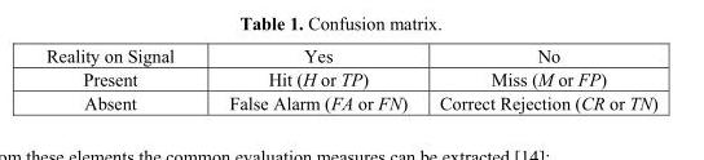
<table><tbody><tr><td>Reality on Signal</td><td>Yes</td><td>No</td></tr><tr><td>Present</td><td>Hit (H or TP)</td><td>Miss (M or FP)</td></tr><tr><td>Absent</td><td>False Alarm (FA or FN)</td><td>Correct Rejection (CR or TN)</td></tr></tbody></table>